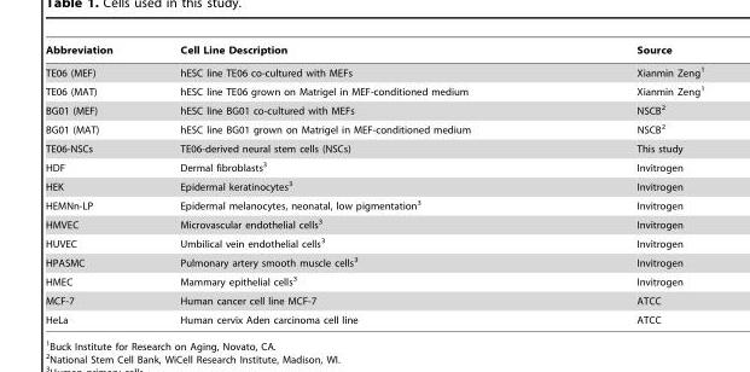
<table><thead><tr><td>Abbreviation</td><td>Cell Line Description</td><td>Source</td></tr></thead><tbody><tr><td>TE06 (MEF)</td><td>hESC line TE06 co-cultured with MEFs</td><td>Xianmin Zeng<sup>1</sup></td></tr><tr><td>TE06 (MAT)</td><td>hESC line TE06 grown on Matrigel in MEF-conditioned medium</td><td>Xianmin Zeng<sup>1</sup></td></tr><tr><td>BG01 (MEF)</td><td>hESC line BG01 co-cultured with MEFs</td><td>NSCB<sup>2</sup></td></tr><tr><td>BG01 (MAT)</td><td>hESC line BG01 grown on Matrigel in MEF-conditioned medium</td><td>NSCB<sup>2</sup></td></tr><tr><td>TE06-NSCs</td><td>TE06-derived neural stem cells (NSCs)</td><td>This study</td></tr><tr><td>HDF</td><td>Dermal fibroblasts<sup>3</sup></td><td>Invitrogen</td></tr><tr><td>HEK</td><td>Epidermal keratinocytes<sup>3</sup></td><td>Invitrogen</td></tr><tr><td>HEMNn-LP</td><td>Epidermal melanocytes, neonatal, low pigmentation<sup>3</sup></td><td>Invitrogen</td></tr><tr><td>HMVEC</td><td>Microvascular endothelial cells<sup>3</sup></td><td>Invitrogen</td></tr><tr><td>HUVEC</td><td>Umbilical vein endothelial cells<sup>3</sup></td><td>Invitrogen</td></tr><tr><td>HPASMC</td><td>Pulmonary artery smooth muscle cells<sup>3</sup></td><td>Invitrogen</td></tr><tr><td>HMEC</td><td>Mammary epithelial cells<sup>3</sup></td><td>Invitrogen</td></tr><tr><td>MCF-7</td><td>Human cancer cell line MCF-7</td><td>ATCC</td></tr><tr><td>HeLa</td><td>Human cervix Aden carcinoma cell line</td><td>ATCC</td></tr></tbody></table>